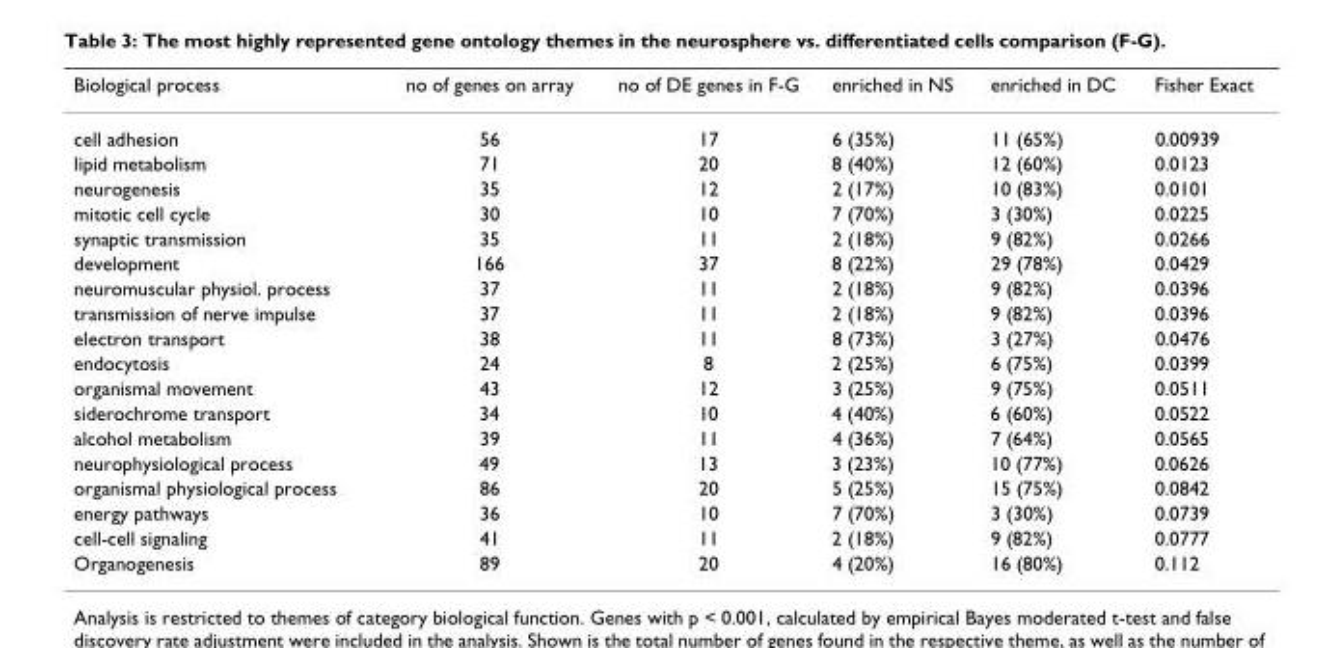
<table><thead><tr><td>Biological process</td><td>no of genes on array</td><td>no of DE genes in F-G</td><td>enriched in NS</td><td>enriched in DC</td><td>Fisher Exact</td></tr></thead><tbody><tr><td>cell adhesion</td><td>56</td><td>17</td><td>6 (35%)</td><td>11 (65%)</td><td>0.00939</td></tr><tr><td>lipid metabolism</td><td>71</td><td>20</td><td>8 (40%)</td><td>12 (60%)</td><td>0.0123</td></tr><tr><td>neurogenesis</td><td>35</td><td>12</td><td>2 (17%)</td><td>10 (83%)</td><td>0.0101</td></tr><tr><td>mitotic cell cycle</td><td>30</td><td>10</td><td>7 (70%)</td><td>3 (30%)</td><td>0.0225</td></tr><tr><td>synaptic transmission</td><td>35</td><td>11</td><td>2 (18%)</td><td>9 (82%)</td><td>0.0266</td></tr><tr><td>development</td><td>166</td><td>37</td><td>8 (22%)</td><td>29 (78%)</td><td>0.0429</td></tr><tr><td>neuromuscular physiol. process</td><td>37</td><td>11</td><td>2 (18%)</td><td>9 (82%)</td><td>0.0396</td></tr><tr><td>transmission of nerve impulse</td><td>37</td><td>11</td><td>2 (18%)</td><td>9 (82%)</td><td>0.0396</td></tr><tr><td>electron transport</td><td>38</td><td>11</td><td>8 (73%)</td><td>3 (27%)</td><td>0.0476</td></tr><tr><td>endocytosis</td><td>24</td><td>8</td><td>2 (25%)</td><td>6 (75%)</td><td>0.0399</td></tr><tr><td>organismal movement</td><td>43</td><td>12</td><td>3 (25%)</td><td>9 (75%)</td><td>0.0511</td></tr><tr><td>siderochrome transport</td><td>34</td><td>10</td><td>4 (40%)</td><td>6 (60%)</td><td>0.0522</td></tr><tr><td>alcohol metabolism</td><td>39</td><td>11</td><td>4 (36%)</td><td>7 (64%)</td><td>0.0565</td></tr><tr><td>neurophysiological process</td><td>49</td><td>13</td><td>3 (23%)</td><td>10 (77%)</td><td>0.0626</td></tr><tr><td>organismal physiological process</td><td>86</td><td>20</td><td>5 (25%)</td><td>15 (75%)</td><td>0.0842</td></tr><tr><td>energy pathways</td><td>36</td><td>10</td><td>7 (70%)</td><td>3 (30%)</td><td>0.0739</td></tr><tr><td>cell-cell signaling</td><td>41</td><td>11</td><td>2 (18%)</td><td>9 (82%)</td><td>0.0777</td></tr><tr><td>Organogenesis</td><td>89</td><td>20</td><td>4 (20%)</td><td>16 (80%)</td><td>0.112</td></tr></tbody></table>